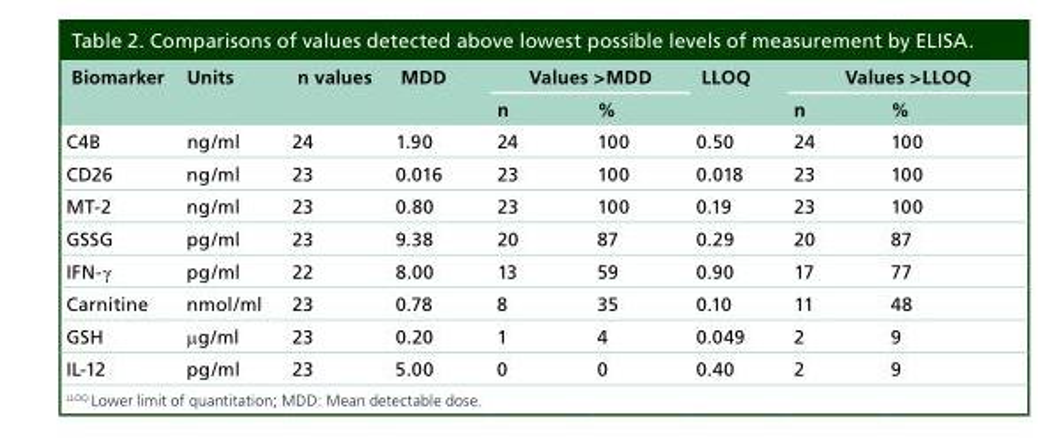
<table><thead><tr><td rowspan="2">Biomarker</td><td rowspan="2">Units</td><td rowspan="2">n values</td><td rowspan="2">MDD</td><td colspan="2">Values &gt;MDD</td><td rowspan="2">LLOQ</td><td colspan="2">Values &gt;LLOQ</td></tr><tr><td>n</td><td>%</td><td>n</td><td>%</td></tr></thead><tbody><tr><td>C4B</td><td>ng/ml</td><td>24</td><td>1.90</td><td>24</td><td>100</td><td>0.50</td><td>24</td><td>100</td></tr><tr><td>CD26</td><td>ng/ml</td><td>23</td><td>0.016</td><td>23</td><td>100</td><td>0.018</td><td>23</td><td>100</td></tr><tr><td>MT-2</td><td>ng/ml</td><td>23</td><td>0.80</td><td>23</td><td>100</td><td>0.19</td><td>23</td><td>100</td></tr><tr><td>GSSG</td><td>pg/ml</td><td>23</td><td>9.38</td><td>20</td><td>87</td><td>0.29</td><td>20</td><td>87</td></tr><tr><td>IFN-γ</td><td>pg/ml</td><td>22</td><td>8.00</td><td>13</td><td>59</td><td>0.90</td><td>17</td><td>77</td></tr><tr><td>Carnitine</td><td>nmol/ml</td><td>23</td><td>0.78</td><td>8</td><td>35</td><td>0.10</td><td>11</td><td>48</td></tr><tr><td>GSH</td><td>μg/ml</td><td>23</td><td>0.20</td><td>1</td><td>4</td><td>0.049</td><td>2</td><td>9</td></tr><tr><td>IL-12</td><td>pg/ml</td><td>23</td><td>5.00</td><td>0</td><td>0</td><td>0.40</td><td>2</td><td>9</td></tr></tbody></table>